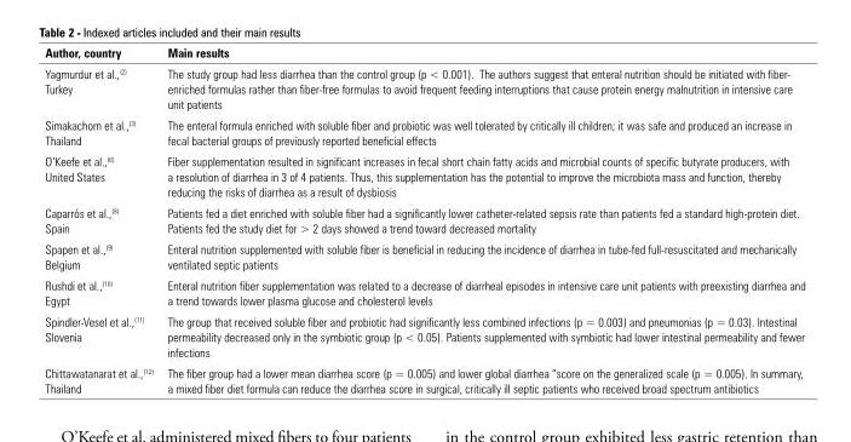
<table><thead><tr><td>Author, country</td><td>Main results</td></tr></thead><tbody><tr><td>Yagmurdur et al.,<sup>(2)</sup> Turkey</td><td>The study group had less diarrhea than the control group (p &lt; 0.001). The authors suggest that enteral nutrition should be initiated with fiber- enriched formulas rather than fiber-free formulas to avoid frequent feeding interruptions that cause protein energy malnutrition in intensive care unit patients</td></tr><tr><td>Simakachorn et al.,<sup>(3)</sup> Thailand</td><td>The enteral formula enriched with soluble fiber and probiotic was well tolerated by critically ill children; it was safe and produced an increase in fecal bacterial groups of previously reported beneficial effects</td></tr><tr><td>O’Keefe et al.,<sup>(6)</sup> United States</td><td>Fiber supplementation resulted in significant increases in fecal short chain fatty acids and microbial counts of specific butyrate producers, with a resolution of diarrhea in 3 of 4 patients. Thus, this supplementation has the potential to improve the microbiota mass and function, thereby reducing the risks of diarrhea as a result of dysbiosis</td></tr><tr><td>Caparrós et al.,<sup>(8)</sup> Spain</td><td>Patients fed a diet enriched with soluble fiber had a significantly lower catheter-related sepsis rate than patients fed a standard high-protein diet. Patients fed the study diet for &gt; 2 days showed a trend toward decreased mortality</td></tr><tr><td>Spapen et al.,<sup>(9)</sup> Belgium</td><td>Enteral nutrition supplemented with soluble fiber is beneficial in reducing the incidence of diarrhea in tube-fed full-resuscitated and mechanically ventilated septic patients</td></tr><tr><td>Rushdi et al.,<sup>(10)</sup> Egypt</td><td>Enteral nutrition fiber supplementation was related to a decrease of diarrheal episodes in intensive care unit patients with preexisting diarrhea and a trend towards lower plasma glucose and cholesterol levels</td></tr><tr><td>Spindler-Vesel et al.,<sup>(11)</sup> Slovenia</td><td>The group that received soluble fiber and probiotic had significantly less combined infections (p = 0.003) and pneumonias (p = 0.03). Intestinal permeability decreased only in the symbiotic group (p &lt; 0.05). Patients supplemented with symbiotic had lower intestinal permeability and fewer infections</td></tr><tr><td>Chittawatanarat et al.,<sup>(12)</sup> Thailand</td><td>The fiber group had a lower mean diarrhea score (p = 0.005) and lower global diarrhea “score on the generalized scale (p = 0.005). In summary, a mixed fiber diet formula can reduce the diarrhea score in surgical, critically ill septic patients who received broad spectrum antibiotics</td></tr></tbody></table>